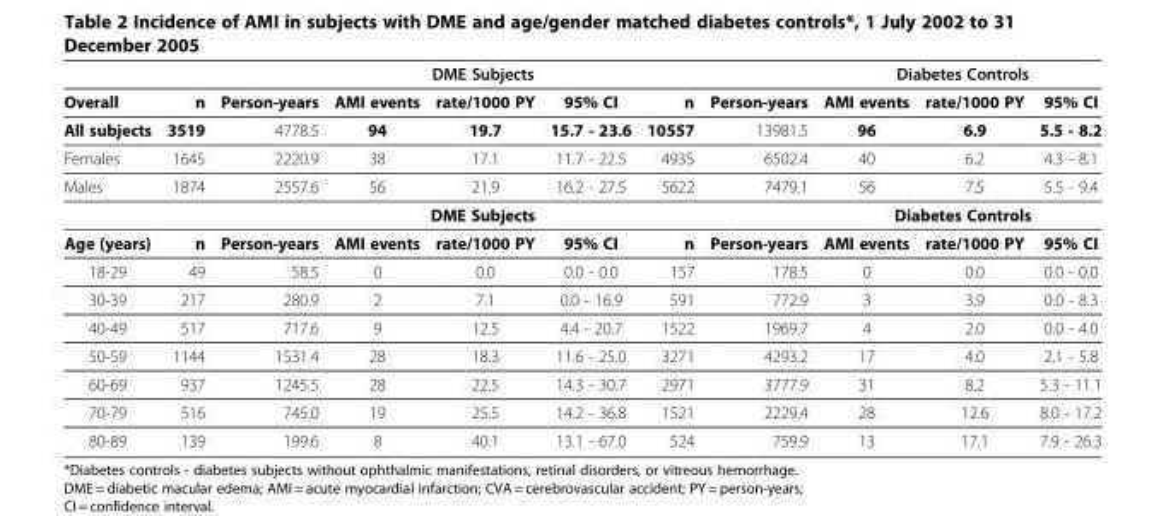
<table><thead><tr><td rowspan="2">Overall</td><td rowspan="2">n</td><td rowspan="2">Person-years</td><td colspan="3">DME Subjects</td><td rowspan="2">n</td><td rowspan="2">Person-years</td><td colspan="3">Diabetes Controls</td></tr><tr><td>AMI events</td><td>rate/1000 PY</td><td>95% CI</td><td>AMI events</td><td>rate/1000 PY</td><td>95% CI</td></tr></thead><tbody><tr><td>All subjects</td><td>3519</td><td>4778.5</td><td>94</td><td>19.7</td><td>15.7 - 23.6</td><td>10557</td><td>13981.5</td><td>96</td><td>6.9</td><td>5.5 - 8.2</td></tr><tr><td>Females</td><td>1645</td><td>2220.9</td><td>38</td><td>17.1</td><td>11.7 - 22.5</td><td>4935</td><td>6502.4</td><td>40</td><td>6.2</td><td>4.3 - 8.1</td></tr><tr><td rowspan="2">Males</td><td>1874</td><td>2557.6</td><td>56</td><td>21.9</td><td>16.2 - 27.5</td><td>5622</td><td>7479.1</td><td>56</td><td>7.5</td><td>5.5 - 9.4</td></tr><tr><td></td><td></td><td colspan="3">DME Subjects</td><td></td><td></td><td colspan="3">Diabetes Controls</td></tr><tr><td>Age (years)</td><td>n</td><td>Person-years</td><td>AMI events</td><td>rate/1000 PY</td><td>95% CI</td><td>n</td><td>Person-years</td><td>AMI events</td><td>rate/1000 PY</td><td>95% CI</td></tr><tr><td>18-29</td><td>49</td><td>58.5</td><td>0</td><td>0.0</td><td>0.0 - 0.0</td><td>157</td><td>178.5</td><td>0</td><td>0.0</td><td>0.0 - 0.0</td></tr><tr><td>30-39</td><td>217</td><td>280.9</td><td>2</td><td>7.1</td><td>0.0 - 16.9</td><td>591</td><td>772.9</td><td>3</td><td>3.9</td><td>0.0 - 8.3</td></tr><tr><td>40-49</td><td>517</td><td>717.6</td><td>9</td><td>12.5</td><td>4.4 - 20.7</td><td>1522</td><td>1969.7</td><td>4</td><td>2.0</td><td>0.0 - 4.0</td></tr><tr><td>50-59</td><td>1144</td><td>1531.4</td><td>28</td><td>18.3</td><td>11.6 - 25.0</td><td>3271</td><td>4293.2</td><td>17</td><td>4.0</td><td>2.1 - 5.8</td></tr><tr><td>60-69</td><td>937</td><td>1245.5</td><td>28</td><td>22.5</td><td>14.3 - 30.7</td><td>2971</td><td>3777.9</td><td>31</td><td>8.2</td><td>5.3 - 11.1</td></tr><tr><td>70-79</td><td>516</td><td>745.0</td><td>19</td><td>25.5</td><td>14.2 - 36.8</td><td>1521</td><td>2229.4</td><td>28</td><td>12.6</td><td>8.0 - 17.2</td></tr><tr><td>80-89</td><td>139</td><td>199.6</td><td>8</td><td>40.1</td><td>13.1 - 67.0</td><td>524</td><td>759.9</td><td>13</td><td>17.1</td><td>7.9 - 26.3</td></tr></tbody></table>